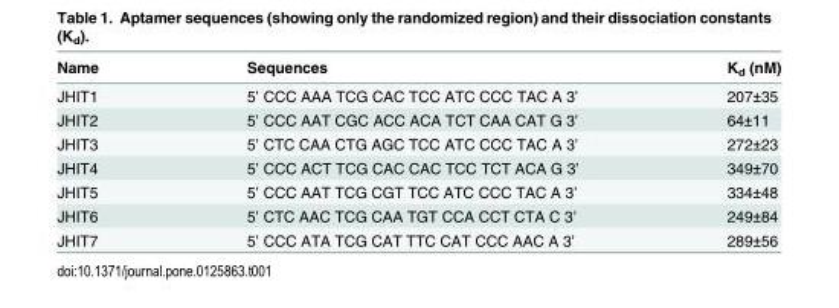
<table><thead><tr><td>Name</td><td>Sequences</td><td>K<sub>d</sub> (nM)</td></tr></thead><tbody><tr><td>JHIT1</td><td>5’ CCC AAA TCG CAC TCC ATC CCC TAC A 3’</td><td>207±35</td></tr><tr><td>JHIT2</td><td>5’ CCC AAT CGC ACC ACA TCT CAA CAT G 3’</td><td>64±11</td></tr><tr><td>JHIT3</td><td>5’ CTC CAA CTG AGC TCC ATC CCC TAC A 3’</td><td>272±23</td></tr><tr><td>JHIT4</td><td>5’ CCC ACT TCG CAC CAC TCC TCT ACA G 3’</td><td>349±70</td></tr><tr><td>JHIT5</td><td>5’ CCC AAT TCG CGT TCC ATC CCC TAC A 3’</td><td>334±48</td></tr><tr><td>JHIT6</td><td>5’ CTC AAC TCG CAA TGT CCA CCT CTA C 3’</td><td>249±84</td></tr><tr><td>JHIT7</td><td>5’ CCC ATA TCG CAT TTC CAT CCC AAC A 3’</td><td>289±56</td></tr></tbody></table>